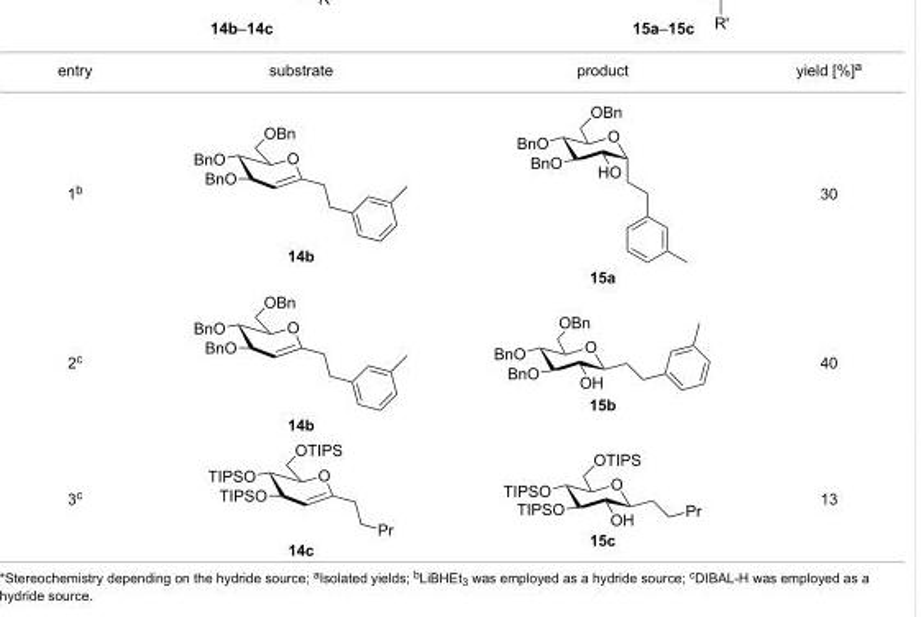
<table><tbody><tr><td>entry</td><td>substrate</td><td>product</td><td>yield [%]<sup>a</sup></td></tr><tr><td>1<sup>b</sup></td><td>14b</td><td>15a</td><td>30</td></tr><tr><td>2<sup>c</sup></td><td>14b</td><td>15b</td><td>40</td></tr><tr><td>3<sup>c</sup></td><td>14c</td><td>15c</td><td>13</td></tr></tbody></table>